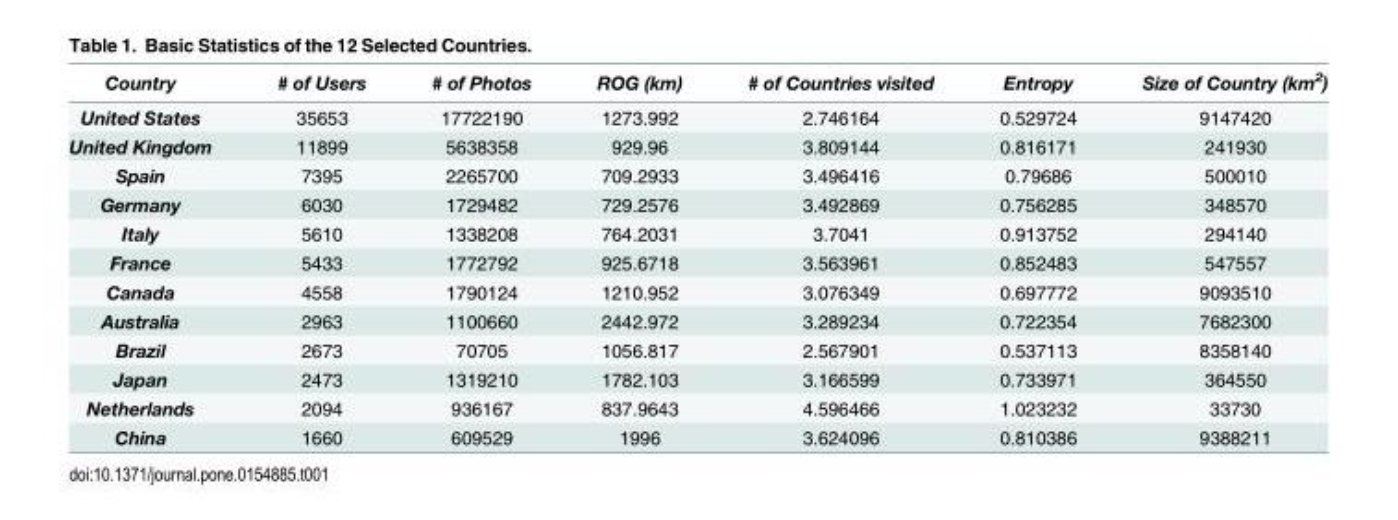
<table><thead><tr><td>Country</td><td># of Users</td><td># of Photos</td><td>ROG (km)</td><td># of Countries visited</td><td>Entropy</td><td>Size of Country (km<sup>2</sup>)</td></tr></thead><tbody><tr><td>United States</td><td>35653</td><td>17722190</td><td>1273.992</td><td>2.746164</td><td>0.529724</td><td>9147420</td></tr><tr><td>United Kingdom</td><td>11899</td><td>5638358</td><td>929.96</td><td>3.809144</td><td>0.816171</td><td>241930</td></tr><tr><td>Spain</td><td>7395</td><td>2265700</td><td>709.2933</td><td>3.496416</td><td>0.79686</td><td>500010</td></tr><tr><td>Germany</td><td>6030</td><td>1729482</td><td>729.2576</td><td>3.492869</td><td>0.756285</td><td>348570</td></tr><tr><td>Italy</td><td>5610</td><td>1338208</td><td>764.2031</td><td>3.7041</td><td>0.913752</td><td>294140</td></tr><tr><td>France</td><td>5433</td><td>1772792</td><td>925.6718</td><td>3.563961</td><td>0.852483</td><td>547557</td></tr><tr><td>Canada</td><td>4558</td><td>1790124</td><td>1210.952</td><td>3.076349</td><td>0.697772</td><td>9093510</td></tr><tr><td>Australia</td><td>2963</td><td>1100660</td><td>2442.972</td><td>3.289234</td><td>0.722354</td><td>7682300</td></tr><tr><td>Brazil</td><td>2673</td><td>70705</td><td>1056.817</td><td>2.567901</td><td>0.537113</td><td>8358140</td></tr><tr><td>Japan</td><td>2473</td><td>1319210</td><td>1782.103</td><td>3.166599</td><td>0.733971</td><td>364550</td></tr><tr><td>Netherlands</td><td>2094</td><td>936167</td><td>837.9643</td><td>4.596466</td><td>1.023232</td><td>33730</td></tr><tr><td>China</td><td>1660</td><td>609529</td><td>1996</td><td>3.624096</td><td>0.810386</td><td>9388211</td></tr></tbody></table>